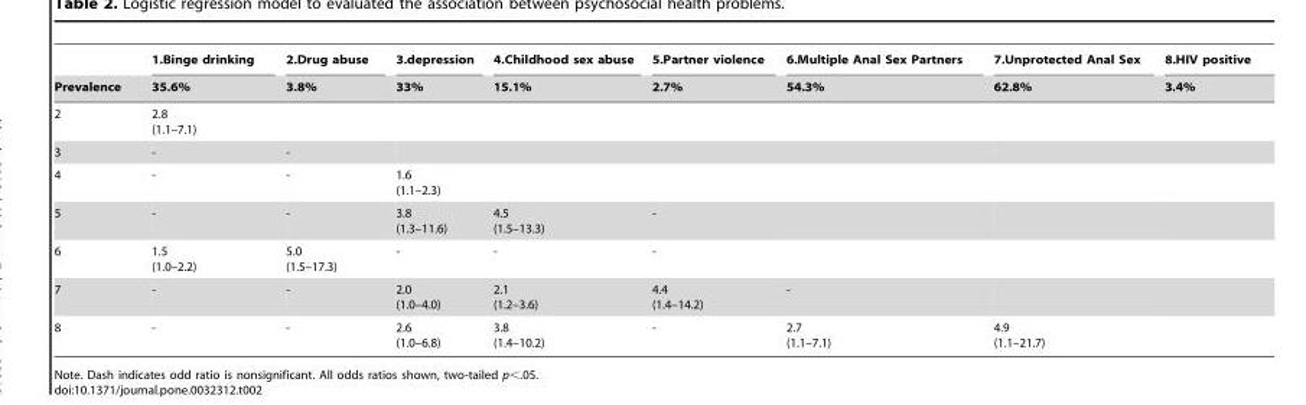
<table><thead><tr><td rowspan="2">Prevalence</td><td rowspan="2">1.Binge drinking 35.6%</td><td rowspan="2">2.Drug abuse 3.8%</td><td rowspan="2">3.depression 33%</td><td rowspan="2">4.Childhood sex abuse 15.1%</td><td rowspan="2">5.Partner violence 2.7%</td><td rowspan="2">6.Multiple Anal Sex Partners 54.3%</td><td rowspan="2">7.Unprotected Anal Sex 62.8%</td><td rowspan="2">8.HIV positive 3.4%</td></tr><tr></tr></thead><tbody><tr><td>2</td><td>2.8 (1.1–7.1)</td><td></td><td></td><td></td><td></td><td></td><td></td><td></td></tr><tr><td>3</td><td>-</td><td>-</td><td></td><td></td><td></td><td></td><td></td><td></td></tr><tr><td>4</td><td>-</td><td>-</td><td>1.6 (1.1–2.3)</td><td></td><td></td><td></td><td></td><td></td></tr><tr><td>5</td><td>-</td><td>-</td><td>3.8 (1.3–11.6)</td><td>4.5 (1.5–13.3)</td><td>-</td><td></td><td></td><td></td></tr><tr><td>6</td><td>1.5 (1.0–2.2)</td><td>5.0 (1.5–17.3)</td><td>-</td><td>-</td><td>-</td><td></td><td></td><td></td></tr><tr><td>7</td><td>-</td><td>-</td><td>2.0 (1.0–4.0)</td><td>2.1 (1.2–3.6)</td><td>4.4 (1.4–14.2)</td><td>-</td><td></td><td></td></tr><tr><td>8</td><td>-</td><td>-</td><td>2.6 (1.0–6.8)</td><td>3.8 (1.4–10.2)</td><td>-</td><td>2.7 (1.1–7.1)</td><td>4.9 (1.1–21.7)</td><td></td></tr></tbody></table>